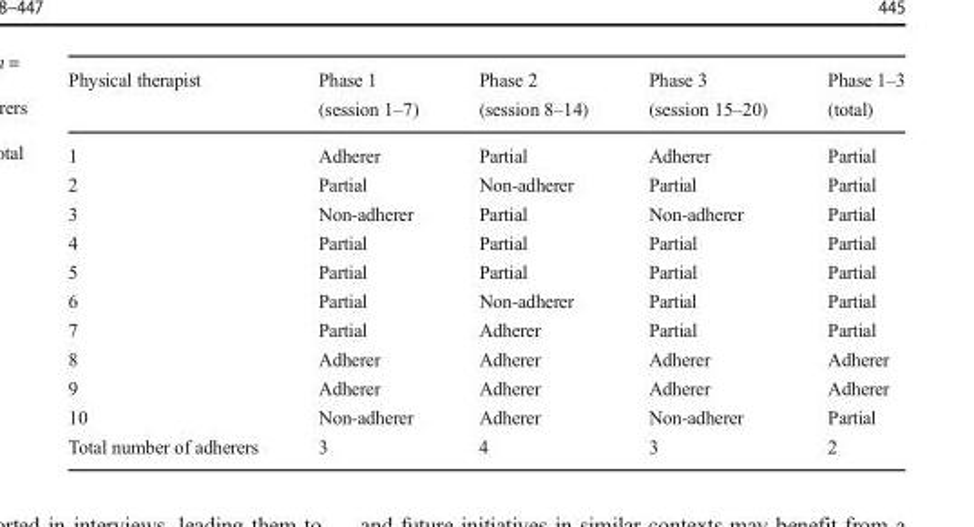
<table><thead><tr><td>Physical therapist</td><td>Phase 1 (session 1–7)</td><td>Phase 2 (session 8–14)</td><td>Phase 3 (session 15–20)</td><td>Phase 1–3 (total)</td></tr></thead><tbody><tr><td>1</td><td>Adherer</td><td>Partial</td><td>Adherer</td><td>Partial</td></tr><tr><td>2</td><td>Partial</td><td>Non-adherer</td><td>Partial</td><td>Partial</td></tr><tr><td>3</td><td>Non-adherer</td><td>Partial</td><td>Non-adherer</td><td>Partial</td></tr><tr><td>4</td><td>Partial</td><td>Partial</td><td>Partial</td><td>Partial</td></tr><tr><td>5</td><td>Partial</td><td>Partial</td><td>Partial</td><td>Partial</td></tr><tr><td>6</td><td>Partial</td><td>Non-adherer</td><td>Partial</td><td>Partial</td></tr><tr><td>7</td><td>Partial</td><td>Adherer</td><td>Partial</td><td>Partial</td></tr><tr><td>8</td><td>Adherer</td><td>Adherer</td><td>Adherer</td><td>Adherer</td></tr><tr><td>9</td><td>Adherer</td><td>Adherer</td><td>Adherer</td><td>Adherer</td></tr><tr><td>10</td><td>Non-adherer</td><td>Adherer</td><td>Non-adherer</td><td>Partial</td></tr><tr><td>Total number of adherers</td><td>3</td><td>4</td><td>3</td><td>2</td></tr></tbody></table>